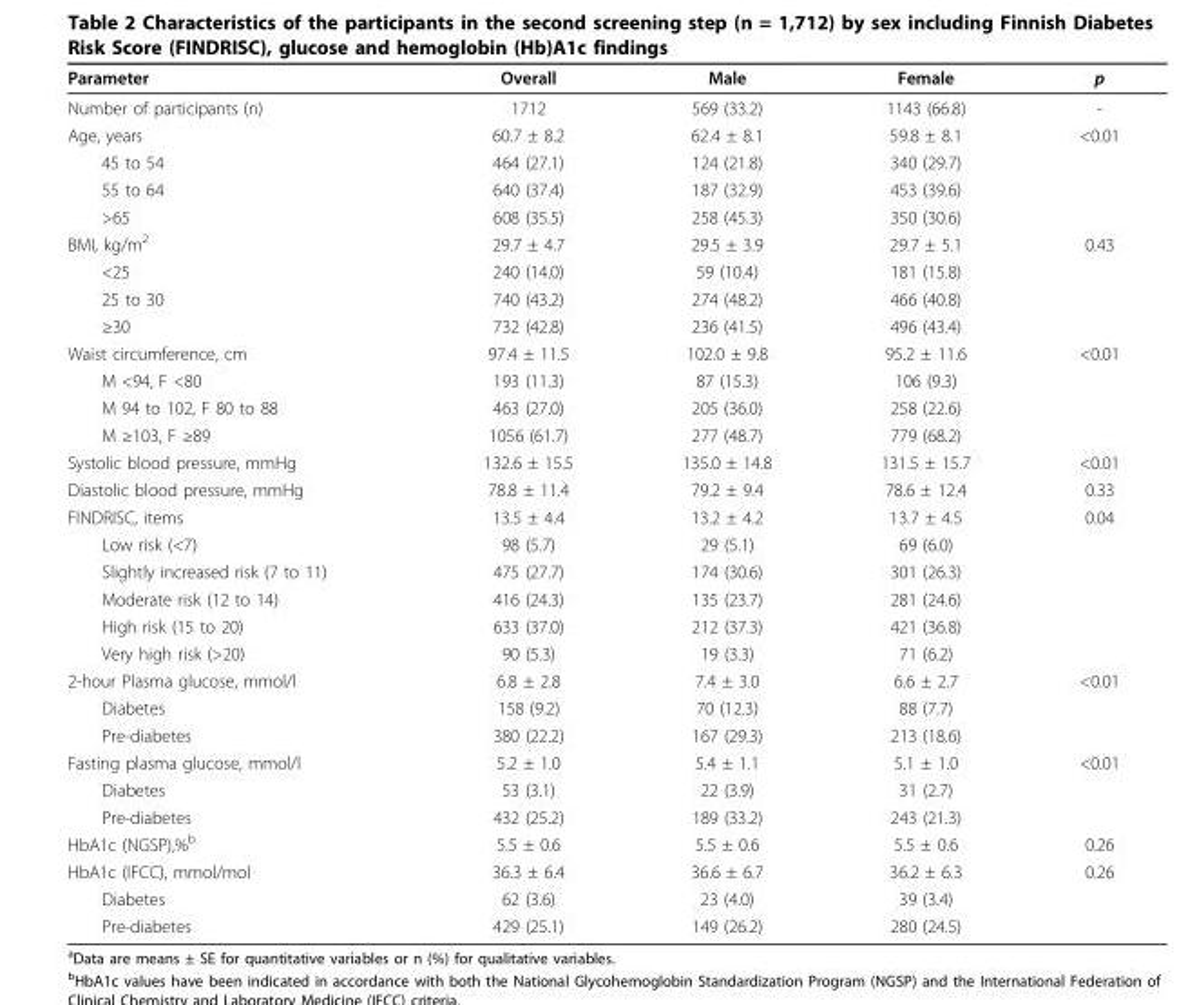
<table><thead><tr><td>Parameter</td><td>Overall</td><td>Male</td><td>Female</td><td>p</td></tr></thead><tbody><tr><td>Number of participants (n)</td><td>1712</td><td>569 (33.2)</td><td>1143 (66.8)</td><td>-</td></tr><tr><td>Age, years</td><td>60.7 ± 8.2</td><td>62.4 ± 8.1</td><td>59.8 ± 8.1</td><td>&lt;0.01</td></tr><tr><td>45 to 54</td><td>464 (27.1)</td><td>124 (21.8)</td><td>340 (29.7)</td><td></td></tr><tr><td>55 to 64</td><td>640 (37.4)</td><td>187 (32.9)</td><td>453 (39.6)</td><td></td></tr><tr><td>&gt;65</td><td>608 (35.5)</td><td>258 (45.3)</td><td>350 (30.6)</td><td></td></tr><tr><td>BMI, kg/m<sup>2</sup></td><td>29.7 ± 4.7</td><td>29.5 ± 3.9</td><td>29.7 ± 5.1</td><td>0.43</td></tr><tr><td>&lt;25</td><td>240 (14.0)</td><td>59 (10.4)</td><td>181 (15.8)</td><td></td></tr><tr><td>25 to 30</td><td>740 (43.2)</td><td>274 (48.2)</td><td>466 (40.8)</td><td></td></tr><tr><td>≥30</td><td>732 (42.8)</td><td>236 (41.5)</td><td>496 (43.4)</td><td></td></tr><tr><td>Waist circumference, cm</td><td>97.4 ± 11.5</td><td>102.0 ± 9.8</td><td>95.2 ± 11.6</td><td>&lt;0.01</td></tr><tr><td>M &lt;94, F &lt;80</td><td>193 (11.3)</td><td>87 (15.3)</td><td>106 (9.3)</td><td></td></tr><tr><td>M 94 to 102, F 80 to 88</td><td>463 (27.0)</td><td>205 (36.0)</td><td>258 (22.6)</td><td></td></tr><tr><td>M ≥103, F ≥89</td><td>1056 (61.7)</td><td>277 (48.7)</td><td>779 (68.2)</td><td></td></tr><tr><td>Systolic blood pressure, mmHg</td><td>132.6 ± 15.5</td><td>135.0 ± 14.8</td><td>131.5 ± 15.7</td><td>&lt;0.01</td></tr><tr><td>Diastolic blood pressure, mmHg</td><td>78.8 ± 11.4</td><td>79.2 ± 9.4</td><td>78.6 ± 12.4</td><td>0.33</td></tr><tr><td>FINDRISC, items</td><td>13.5 ± 4.4</td><td>13.2 ± 4.2</td><td>13.7 ± 4.5</td><td>0.04</td></tr><tr><td>Low risk (&lt;7)</td><td>98 (5.7)</td><td>29 (5.1)</td><td>69 (6.0)</td><td></td></tr><tr><td>Slightly increased risk (7 to 11)</td><td>475 (27.7)</td><td>174 (30.6)</td><td>301 (26.3)</td><td></td></tr><tr><td>Moderate risk (12 to 14)</td><td>416 (24.3)</td><td>135 (23.7)</td><td>281 (24.6)</td><td></td></tr><tr><td>High risk (15 to 20)</td><td>633 (37.0)</td><td>212 (37.3)</td><td>421 (36.8)</td><td></td></tr><tr><td>Very high risk (&gt;20)</td><td>90 (5.3)</td><td>19 (3.3)</td><td>71 (6.2)</td><td></td></tr><tr><td>2-hour Plasma glucose, mmol/l</td><td>6.8 ± 2.8</td><td>7.4 ± 3.0</td><td>6.6 ± 2.7</td><td>&lt;0.01</td></tr><tr><td>Diabetes</td><td>158 (9.2)</td><td>70 (12.3)</td><td>88 (7.7)</td><td></td></tr><tr><td>Pre-diabetes</td><td>380 (22.2)</td><td>167 (29.3)</td><td>213 (18.6)</td><td></td></tr><tr><td>Fasting plasma glucose, mmol/l</td><td>5.2 ± 1.0</td><td>5.4 ± 1.1</td><td>5.1 ± 1.0</td><td>&lt;0.01</td></tr><tr><td>Diabetes</td><td>53 (3.1)</td><td>22 (3.9)</td><td>31 (2.7)</td><td></td></tr><tr><td>Pre-diabetes</td><td>432 (25.2)</td><td>189 (33.2)</td><td>243 (21.3)</td><td></td></tr><tr><td>HbA1c (NGSP),%<sup>b</sup></td><td>5.5 ± 0.6</td><td>5.5 ± 0.6</td><td>5.5 ± 0.6</td><td>0.26</td></tr><tr><td>HbA1c (IFCC), mmol/mol</td><td>36.3 ± 6.4</td><td>36.6 ± 6.7</td><td>36.2 ± 6.3</td><td>0.26</td></tr><tr><td>Diabetes</td><td>62 (3.6)</td><td>23 (4.0)</td><td>39 (3.4)</td><td></td></tr><tr><td>Pre-diabetes</td><td>429 (25.1)</td><td>149 (26.2)</td><td>280 (24.5)</td><td></td></tr></tbody></table>